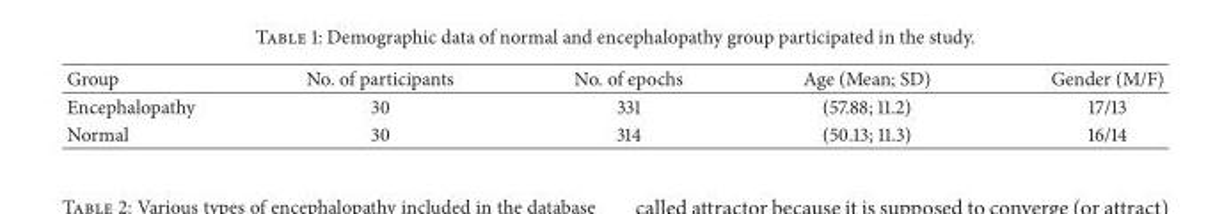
<table><thead><tr><td>Group</td><td>No. of participants</td><td>No. of epochs</td><td>Age (Mean; SD)</td><td>Gender (M/F)</td></tr></thead><tbody><tr><td>Encephalopathy</td><td>30</td><td>331</td><td>(57.88; 11.2)</td><td>17/13</td></tr><tr><td>Normal</td><td>30</td><td>314</td><td>(50.13; 11.3)</td><td>16/14</td></tr></tbody></table>